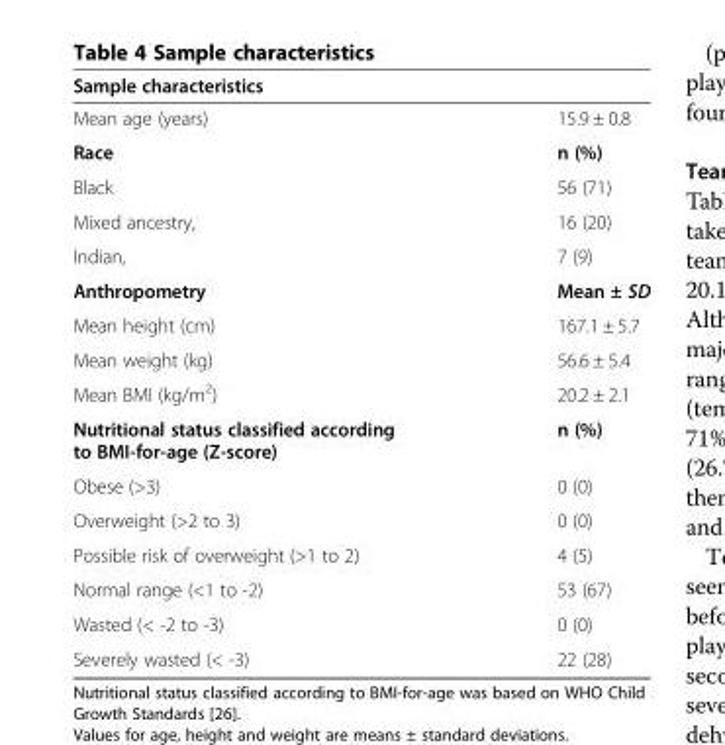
<table><thead><tr><td colspan="2">Sample characteristics</td></tr><tr><td>Mean age (years)</td><td>15.9 ± 0.8</td></tr></thead><tbody><tr><td>Race</td><td>n (%)</td></tr><tr><td>Black</td><td>56 (71)</td></tr><tr><td>Mixed ancestry,</td><td>16 (20)</td></tr><tr><td>Indian,</td><td>7 (9)</td></tr><tr><td>Anthropometry</td><td>Mean ± SD</td></tr><tr><td>Mean height (cm)</td><td>167.1 ± 5.7</td></tr><tr><td>Mean weight (kg)</td><td>56.6 ± 5.4</td></tr><tr><td>Mean BMI (kg/m<sup>2</sup>)</td><td>20.2 ± 2.1</td></tr><tr><td>Nutritional status classified according to BMI-for-age (Z-score)</td><td>n (%)</td></tr><tr><td>Obese (&gt;3)</td><td>0 (0)</td></tr><tr><td>Overweight (&gt;2 to 3)</td><td>0 (0)</td></tr><tr><td>Possible risk of overweight (&gt;1 to 2)</td><td>4 (5)</td></tr><tr><td>Normal range (&lt;1 to -2)</td><td>53 (67)</td></tr><tr><td>Wasted (&lt; -2 to -3)</td><td>0 (0)</td></tr><tr><td>Severely wasted (&lt; -3)</td><td>22 (28)</td></tr></tbody></table>